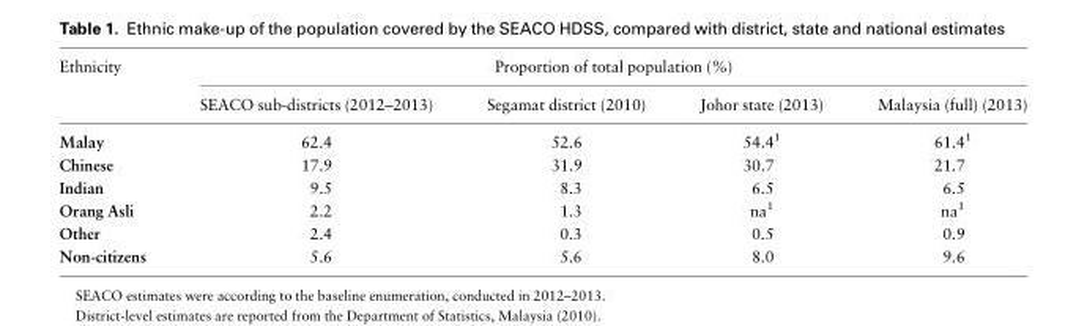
<table><thead><tr><td rowspan="2">Ethnicity</td><td colspan="4">Proportion of total population (%)</td></tr><tr><td>SEACO sub-districts (2012–2013)</td><td>Segamat district (2010)</td><td>Johor state (2013)</td><td>Malaysia (full) (2013)</td></tr></thead><tbody><tr><td>Malay</td><td>62.4</td><td>52.6</td><td>54.4<sup>1</sup></td><td>61.4<sup>1</sup></td></tr><tr><td>Chinese</td><td>17.9</td><td>31.9</td><td>30.7</td><td>21.7</td></tr><tr><td>Indian</td><td>9.5</td><td>8.3</td><td>6.5</td><td>6.5</td></tr><tr><td>Orang Asli</td><td>2.2</td><td>1.3</td><td>na<sup>1</sup></td><td>na<sup>1</sup></td></tr><tr><td>Other</td><td>2.4</td><td>0.3</td><td>0.5</td><td>0.9</td></tr><tr><td>Non-citizens</td><td>5.6</td><td>5.6</td><td>8.0</td><td>9.6</td></tr></tbody></table>